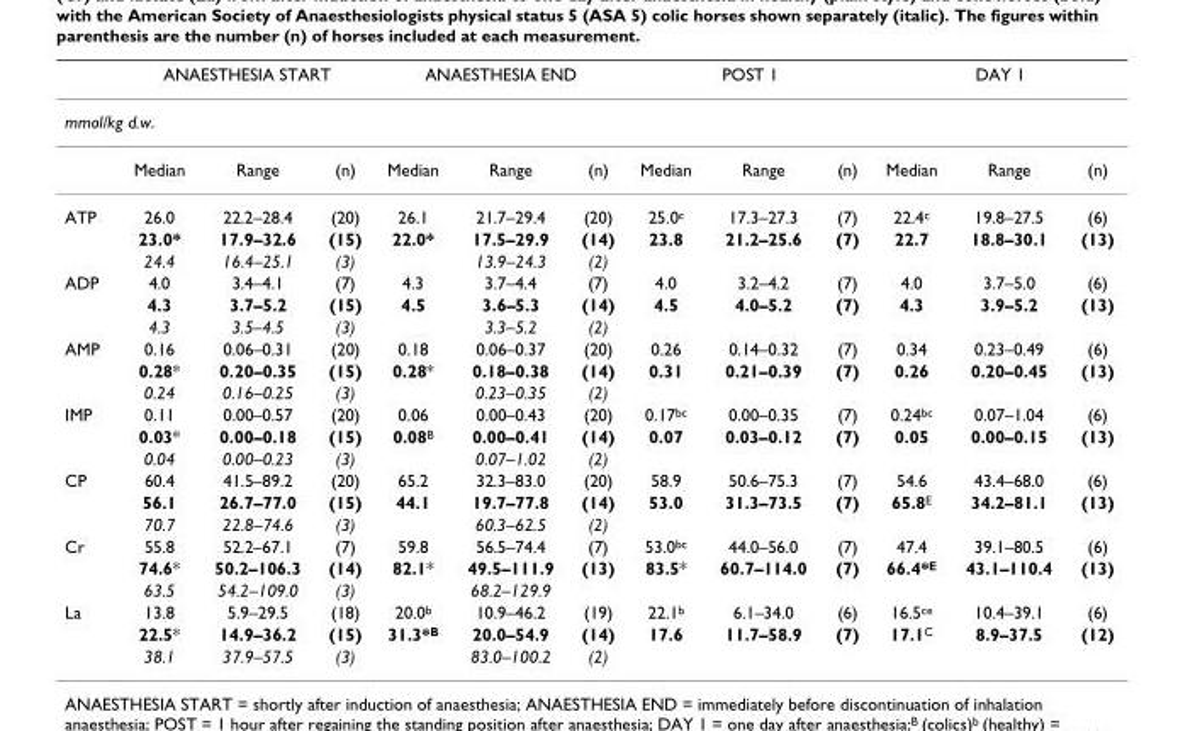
<table><thead><tr><td></td><td colspan="3">ANAESTHESIA START</td><td colspan="3">ANAESTHESIA END</td><td colspan="3">POST 1</td><td colspan="3">DAY 1</td></tr><tr><td colspan="13">mmol/kg d.w.</td></tr><tr><td></td><td>Median</td><td>Range</td><td>(n)</td><td>Median</td><td>Range</td><td>(n)</td><td>Median</td><td>Range</td><td>(n)</td><td>Median</td><td>Range</td><td>(n)</td></tr></thead><tbody><tr><td rowspan="3">ATP</td><td>26.0</td><td>22.2–28.4</td><td>(20)</td><td>26.1</td><td>21.7–29.4</td><td>(20)</td><td>25.0<sup>c</sup></td><td>17.3–27.3</td><td>(7)</td><td>22.4<sup>c</sup></td><td>19.8–27.5</td><td>(6)</td></tr><tr><td>23.0*</td><td>17.9–32.6</td><td>(15)</td><td>22.0*</td><td>17.5–29.9</td><td>(14)</td><td>23.8</td><td>21.2–25.6</td><td>(7)</td><td>22.7</td><td>18.8–30.1</td><td>(13)</td></tr><tr><td>24.4</td><td>16.4–25.1</td><td>(3)</td><td></td><td>13.9–24.3</td><td>(2)</td><td></td><td></td><td></td><td></td><td></td><td></td></tr><tr><td rowspan="3">ADP</td><td>4.0</td><td>3.4–4.1</td><td>(7)</td><td>4.3</td><td>3.7–4.4</td><td>(7)</td><td>4.0</td><td>3.2–4.2</td><td>(7)</td><td>4.0</td><td>3.7–5.0</td><td>(6)</td></tr><tr><td>4.3</td><td>3.7–5.2</td><td>(15)</td><td>4.5</td><td>3.6–5.3</td><td>(14)</td><td>4.5</td><td>4.0–5.2</td><td>(7)</td><td>4.3</td><td>3.9–5.2</td><td>(13)</td></tr><tr><td>4.3</td><td>3.5–4.5</td><td>(3)</td><td></td><td>3.3–5.2</td><td>(2)</td><td></td><td></td><td></td><td></td><td></td><td></td></tr><tr><td rowspan="3">AMP</td><td>0.16</td><td>0.06–0.31</td><td>(20)</td><td>0.18</td><td>0.06–0.37</td><td>(20)</td><td>0.26</td><td>0.14–0.32</td><td>(7)</td><td>0.34</td><td>0.23–0.49</td><td>(6)</td></tr><tr><td>0.28*</td><td>0.20–0.35</td><td>(15)</td><td>0.28*</td><td>0.18–0.38</td><td>(14)</td><td>0.31</td><td>0.21–0.39</td><td>(7)</td><td>0.26</td><td>0.20–0.45</td><td>(13)</td></tr><tr><td>0.24</td><td>0.16–0.25</td><td>(3)</td><td></td><td>0.23–0.35</td><td>(2)</td><td></td><td></td><td></td><td></td><td></td><td></td></tr><tr><td rowspan="3">IMP</td><td>0.11</td><td>0.00–0.57</td><td>(20)</td><td>0.06</td><td>0.00–0.43</td><td>(20)</td><td>0.17<sup>bc</sup></td><td>0.00–0.35</td><td>(7)</td><td>0.24<sup>bc</sup></td><td>0.07–1.04</td><td>(6)</td></tr><tr><td>0.03*</td><td>0.00–0.18</td><td>(15)</td><td>0.08<sup>B</sup></td><td>0.00–0.41</td><td>(14)</td><td>0.07</td><td>0.03–0.12</td><td>(7)</td><td>0.05</td><td>0.00–0.15</td><td>(13)</td></tr><tr><td>0.04</td><td>0.00–0.23</td><td>(3)</td><td></td><td>0.07–1.02</td><td>(2)</td><td></td><td></td><td></td><td></td><td></td><td></td></tr><tr><td rowspan="3">CP</td><td>60.4</td><td>41.5–89.2</td><td>(20)</td><td>65.2</td><td>32.3–83.0</td><td>(20)</td><td>58.9</td><td>50.6–75.3</td><td>(7)</td><td>54.6</td><td>43.4–68.0</td><td>(6)</td></tr><tr><td>56.1</td><td>26.7–77.0</td><td>(15)</td><td>44.1</td><td>19.7–77.8</td><td>(14)</td><td>53.0</td><td>31.3–73.5</td><td>(7)</td><td>65.8<sup>E</sup></td><td>34.2–81.1</td><td>(13)</td></tr><tr><td>70.7</td><td>22.8–74.6</td><td>(3)</td><td></td><td>60.3–62.5</td><td>(2)</td><td></td><td></td><td></td><td></td><td></td><td></td></tr><tr><td rowspan="3">Cr</td><td>55.8</td><td>52.2–67.1</td><td>(7)</td><td>59.8</td><td>56.5–74.4</td><td>(7)</td><td>53.0<sup>bc</sup></td><td>44.0–56.0</td><td>(7)</td><td>47.4</td><td>39.1–80.5</td><td>(6)</td></tr><tr><td>74.6*</td><td>50.2–106.3</td><td>(14)</td><td>82.1*</td><td>49.5–111.9</td><td>(13)</td><td>83.5*</td><td>60.7–114.0</td><td>(7)</td><td>66.4*<sup>E</sup></td><td>43.1–110.4</td><td>(13)</td></tr><tr><td>63.5</td><td>54.2–109.0</td><td>(3)</td><td></td><td>68.2–129.9</td><td></td><td></td><td></td><td></td><td></td><td></td><td></td></tr><tr><td rowspan="3">La</td><td>13.8</td><td>5.9–29.5</td><td>(18)</td><td>20.0<sup>b</sup></td><td>10.9–46.2</td><td>(19)</td><td>22.1<sup>b</sup></td><td>6.1–34.0</td><td>(6)</td><td>16.5<sup>ce</sup></td><td>10.4–39.1</td><td>(6)</td></tr><tr><td>22.5*</td><td>14.9–36.2</td><td>(15)</td><td>31.3*<sup>B</sup></td><td>20.0–54.9</td><td>(14)</td><td>17.6</td><td>11.7–58.9</td><td>(7)</td><td>17.1<sup>C</sup></td><td>8.9–37.5</td><td>(12)</td></tr><tr><td>38.1</td><td>37.9–57.5</td><td>(3)</td><td></td><td>83.0–100.2</td><td>(2)</td><td></td><td></td><td></td><td></td><td></td><td></td></tr></tbody></table>